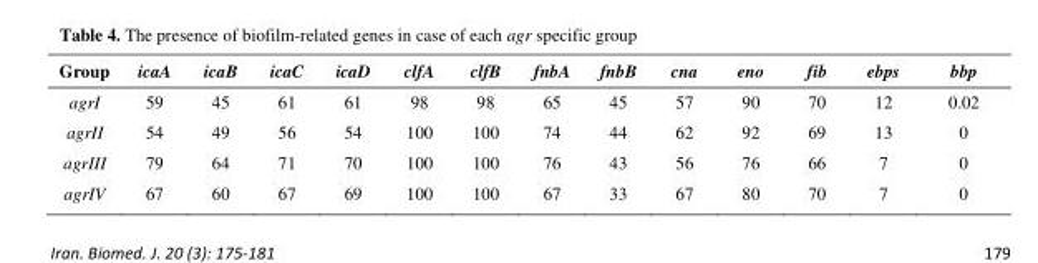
<table><thead><tr><td>Group</td><td>icaA</td><td>icaB</td><td>icaC</td><td>icaD</td><td>clfA</td><td>clfB</td><td>fnbA</td><td>fnbB</td><td>cna</td><td>eno</td><td>fib</td><td>ebps</td><td>bbp</td></tr></thead><tbody><tr><td>agrI</td><td>59</td><td>45</td><td>61</td><td>61</td><td>98</td><td>98</td><td>65</td><td>45</td><td>57</td><td>90</td><td>70</td><td>12</td><td>0.02</td></tr><tr><td>agrII</td><td>54</td><td>49</td><td>56</td><td>54</td><td>100</td><td>100</td><td>74</td><td>44</td><td>62</td><td>92</td><td>69</td><td>13</td><td>0</td></tr><tr><td>agrIII</td><td>79</td><td>64</td><td>71</td><td>70</td><td>100</td><td>100</td><td>76</td><td>43</td><td>56</td><td>76</td><td>66</td><td>7</td><td>0</td></tr><tr><td>agrIV</td><td>67</td><td>60</td><td>67</td><td>69</td><td>100</td><td>100</td><td>67</td><td>33</td><td>67</td><td>80</td><td>70</td><td>7</td><td>0</td></tr></tbody></table>